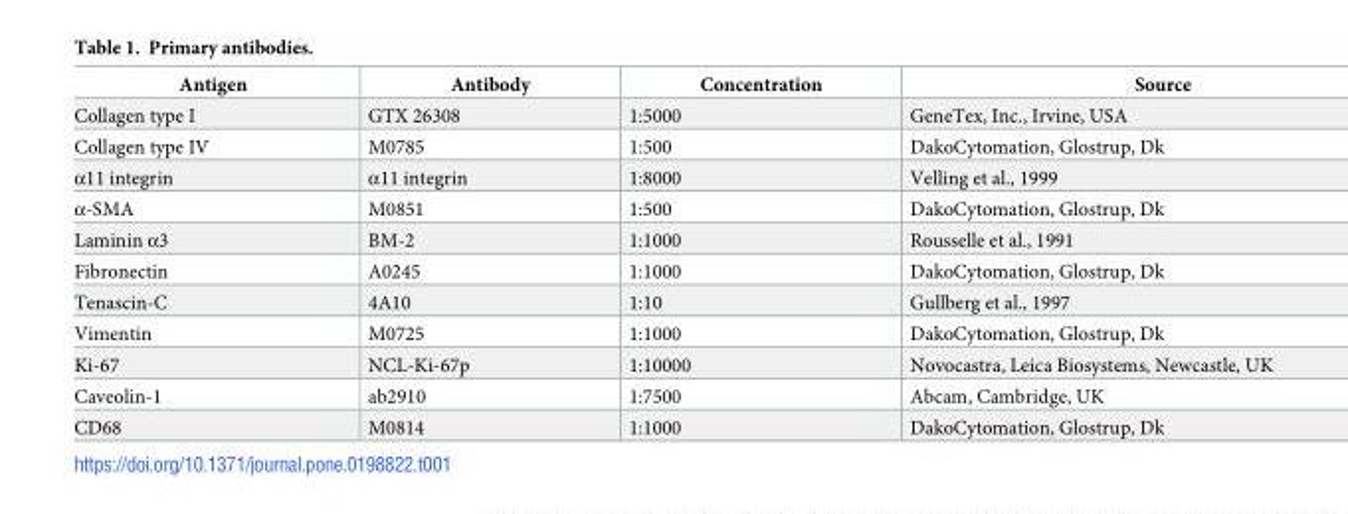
<table><thead><tr><td>Antigen</td><td>Antibody</td><td>Concentration</td><td>Source</td></tr></thead><tbody><tr><td>Collagen type I</td><td>GTX 26308</td><td>1:5000</td><td>GeneTex, Inc., Irvine, USA</td></tr><tr><td>Collagen type IV</td><td>M0785</td><td>1:500</td><td>DakoCytomation, Glostrup, Dk</td></tr><tr><td>α11 integrin</td><td>α11 integrin</td><td>1:8000</td><td>Velling et al., 1999</td></tr><tr><td>α-SMA</td><td>M0851</td><td>1:500</td><td>DakoCytomation, Glostrup, Dk</td></tr><tr><td>Laminin α3</td><td>BM-2</td><td>1:1000</td><td>Rousselle et al., 1991</td></tr><tr><td>Fibronectin</td><td>A0245</td><td>1:1000</td><td>DakoCytomation, Glostrup, Dk</td></tr><tr><td>Tenascin-C</td><td>4A10</td><td>1:10</td><td>Gullberg et al., 1997</td></tr><tr><td>Vimentin</td><td>M0725</td><td>1:1000</td><td>DakoCytomation, Glostrup, Dk</td></tr><tr><td>Ki-67</td><td>NCL-Ki-67p</td><td>1:10000</td><td>Novocastra, Leica Biosystems, Newcastle, UK</td></tr><tr><td>Caveolin-1</td><td>ab2910</td><td>1:7500</td><td>Abcam, Cambridge, UK</td></tr><tr><td>CD68</td><td>M0814</td><td>1:1000</td><td>DakoCytomation, Glostrup, Dk</td></tr></tbody></table>